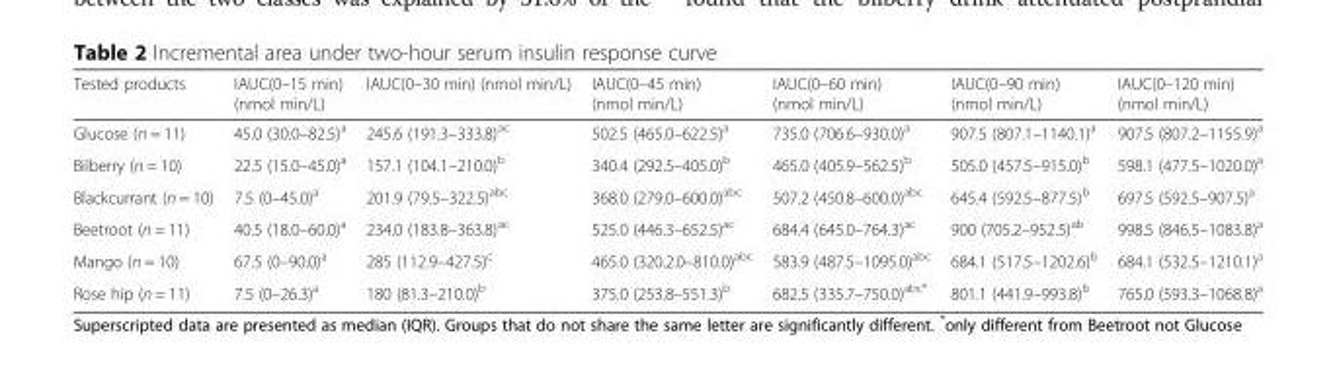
<table><thead><tr><td>Tested products</td><td>IAUC(0–15 min) (nmol min/L)</td><td>IAUC(0–30 min) (nmol min/L)</td><td>IAUC(0–45 min) (nmol min/L)</td><td>IAUC(0–60 min) (nmol min/L)</td><td>IAUC(0–90 min) (nmol min/L)</td><td>IAUC(0–120 min) (nmol min/L)</td></tr></thead><tbody><tr><td>Glucose (n = 11)</td><td>45.0 (30.0–82.5)<sup>a</sup></td><td>245.6 (191.3–333.8)<sup>ac</sup></td><td>502.5 (465.0–622.5)<sup>a</sup></td><td>735.0 (706.6–930.0)<sup>a</sup></td><td>907.5 (807.1–1140.1)<sup>a</sup></td><td>907.5 (807.2–1155.9)<sup>a</sup></td></tr><tr><td>Bilberry (n = 10)</td><td>22.5 (15.0–45.0)<sup>a</sup></td><td>157.1 (104.1–210.0)<sup>b</sup></td><td>340.4 (292.5–405.0)<sup>b</sup></td><td>465.0 (405.9–562.5)<sup>b</sup></td><td>505.0 (457.5–915.0)<sup>b</sup></td><td>598.1 (477.5–1020.0)<sup>a</sup></td></tr><tr><td>Blackcurrant (n = 10)</td><td>7.5 (0–45.0)<sup>a</sup></td><td>201.9 (79.5–322.5)<sup>abc</sup></td><td>368.0 (279.0–600.0)<sup>abc</sup></td><td>507.2 (450.8–600.0)<sup>abc</sup></td><td>645.4 (592.5–877.5)<sup>b</sup></td><td>697.5 (592.5–907.5)<sup>a</sup></td></tr><tr><td>Beetroot (n = 11)</td><td>40.5 (18.0–60.0)<sup>a</sup></td><td>234.0 (183.8–363.8)<sup>ac</sup></td><td>525.0 (446.3–652.5)<sup>ac</sup></td><td>684.4 (645.0–764.3)<sup>ac</sup></td><td>900 (705.2–952.5)<sup>ab</sup></td><td>998.5 (846.5–1083.8)<sup>a</sup></td></tr><tr><td>Mango (n = 10)</td><td>67.5 (0–90.0)<sup>a</sup></td><td>285 (112.9–427.5)<sup>c</sup></td><td>465.0 (320.2.0–810.0)<sup>abc</sup></td><td>583.9 (487.5–1095.0)<sup>abc</sup></td><td>684.1 (517.5–1202.6)<sup>b</sup></td><td>684.1 (532.5–1210.1)<sup>a</sup></td></tr><tr><td>Rose hip (n = 11)</td><td>7.5 (0–26.3)<sup>a</sup></td><td>180 (81.3–210.0)<sup>b</sup></td><td>375.0 (253.8–551.3)<sup>b</sup></td><td>682.5 (335.7–750.0)<sup>abc*</sup></td><td>801.1 (441.9–993.8)<sup>b</sup></td><td>765.0 (593.3–1068.8)<sup>a</sup></td></tr></tbody></table>